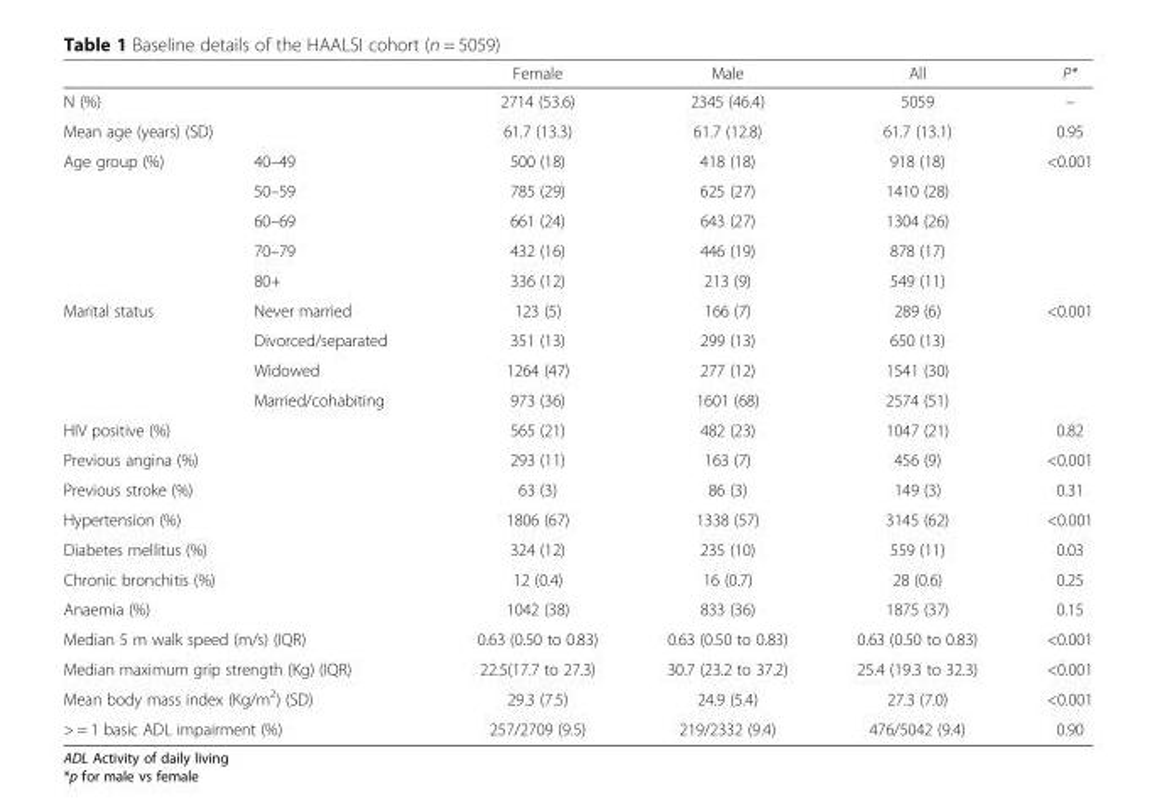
<table><thead><tr><td></td><td></td><td>Female</td><td>Male</td><td>All</td><td>P*</td></tr></thead><tbody><tr><td colspan="2">N (%)</td><td>2714 (53.6)</td><td>2345 (46.4)</td><td>5059</td><td>–</td></tr><tr><td colspan="2">Mean age (years) (SD)</td><td>61.7 (13.3)</td><td>61.7 (12.8)</td><td>61.7 (13.1)</td><td>0.95</td></tr><tr><td rowspan="5">Age group (%)</td><td>40–49</td><td>500 (18)</td><td>418 (18)</td><td>918 (18)</td><td>&lt;0.001</td></tr><tr><td>50–59</td><td>785 (29)</td><td>625 (27)</td><td>1410 (28)</td><td></td></tr><tr><td>60–69</td><td>661 (24)</td><td>643 (27)</td><td>1304 (26)</td><td></td></tr><tr><td>70–79</td><td>432 (16)</td><td>446 (19)</td><td>878 (17)</td><td></td></tr><tr><td>80+</td><td>336 (12)</td><td>213 (9)</td><td>549 (11)</td><td></td></tr><tr><td rowspan="4">Marital status</td><td>Never married</td><td>123 (5)</td><td>166 (7)</td><td>289 (6)</td><td rowspan="2">&lt;0.001</td></tr><tr><td>Divorced/separated</td><td>351 (13)</td><td>299 (13)</td><td>650 (13)</td></tr><tr><td>Widowed</td><td>1264 (47)</td><td>277 (12)</td><td>1541 (30)</td><td></td></tr><tr><td>Married/cohabiting</td><td>973 (36)</td><td>1601 (68)</td><td>2574 (51)</td><td></td></tr><tr><td colspan="2">HIV positive (%)</td><td>565 (21)</td><td>482 (23)</td><td>1047 (21)</td><td>0.82</td></tr><tr><td colspan="2">Previous angina (%)</td><td>293 (11)</td><td>163 (7)</td><td>456 (9)</td><td>&lt;0.001</td></tr><tr><td colspan="2">Previous stroke (%)</td><td>63 (3)</td><td>86 (3)</td><td>149 (3)</td><td>0.31</td></tr><tr><td colspan="2">Hypertension (%)</td><td>1806 (67)</td><td>1338 (57)</td><td>3145 (62)</td><td>&lt;0.001</td></tr><tr><td colspan="2">Diabetes mellitus (%)</td><td>324 (12)</td><td>235 (10)</td><td>559 (11)</td><td>0.03</td></tr><tr><td colspan="2">Chronic bronchitis (%)</td><td>12 (0.4)</td><td>16 (0.7)</td><td>28 (0.6)</td><td>0.25</td></tr><tr><td colspan="2">Anaemia (%)</td><td>1042 (38)</td><td>833 (36)</td><td>1875 (37)</td><td>0.15</td></tr><tr><td colspan="2">Median 5 m walk speed (m/s) (IQR)</td><td>0.63 (0.50 to 0.83)</td><td>0.63 (0.50 to 0.83)</td><td>0.63 (0.50 to 0.83)</td><td>&lt;0.001</td></tr><tr><td colspan="2">Median maximum grip strength (Kg) (IQR)</td><td>22.5(17.7 to 27.3)</td><td>30.7 (23.2 to 37.2)</td><td>25.4 (19.3 to 32.3)</td><td>&lt;0.001</td></tr><tr><td colspan="2">Mean body mass index (Kg/m<sup>2</sup>) (SD)</td><td>29.3 (7.5)</td><td>24.9 (5.4)</td><td>27.3 (7.0)</td><td>&lt;0.001</td></tr><tr><td colspan="2">&gt; = 1 basic ADL impairment (%)</td><td>257/2709 (9.5)</td><td>219/2332 (9.4)</td><td>476/5042 (9.4)</td><td>0.90</td></tr></tbody></table>